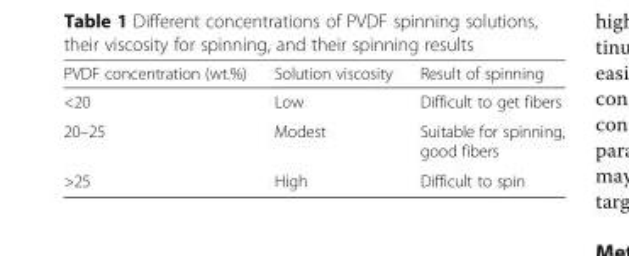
<table><thead><tr><td>PVDF concentration (wt.%)</td><td>Solution viscosity</td><td>Result of spinning</td></tr></thead><tbody><tr><td>&lt;20</td><td>Low</td><td>Difficult to get fibers</td></tr><tr><td>20–25</td><td>Modest</td><td>Suitable for spinning, good fibers</td></tr><tr><td>&gt;25</td><td>High</td><td>Difficult to spin</td></tr></tbody></table>